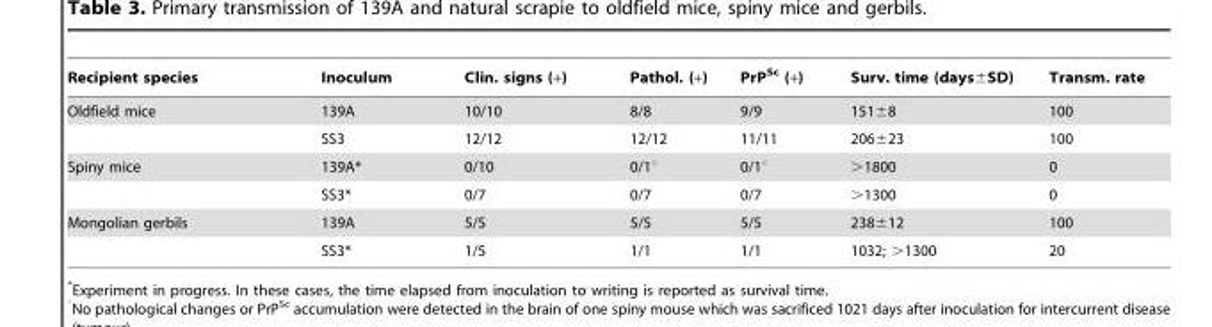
<table><thead><tr><td>Recipient species</td><td>Inoculum</td><td>Clin. signs (+)</td><td>Pathol. (+)</td><td>PrP<sup>Sc</sup> (+)</td><td>Surv. time (days±SD)</td><td>Transm. rate</td></tr></thead><tbody><tr><td rowspan="2">Oldfield mice</td><td>139A</td><td>10/10</td><td>8/8</td><td>9/9</td><td>151±8</td><td>100</td></tr><tr><td>SS3</td><td>12/12</td><td>12/12</td><td>11/11</td><td>206±23</td><td>100</td></tr><tr><td rowspan="2">Spiny mice</td><td>139A*</td><td>0/10</td><td>0/1°</td><td>0/1°</td><td>&gt;1800</td><td>0</td></tr><tr><td>SS3*</td><td>0/7</td><td>0/7</td><td>0/7</td><td>&gt;1300</td><td>0</td></tr><tr><td rowspan="2">Mongolian gerbils</td><td>139A</td><td>5/5</td><td>5/5</td><td>5/5</td><td>238±12</td><td>100</td></tr><tr><td>SS3*</td><td>1/5</td><td>1/1</td><td>1/1</td><td>1032; &gt;1300</td><td>20</td></tr></tbody></table>